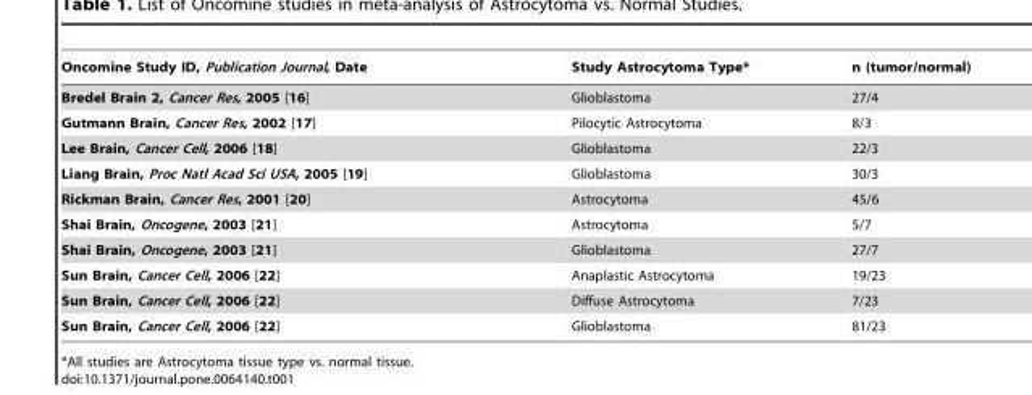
<table><thead><tr><td>Oncomine Study ID, Publication Journal, Date</td><td>Study Astrocytoma Type*</td><td>n (tumor/normal)</td></tr></thead><tbody><tr><td>Bredel Brain 2, Cancer Res, 2005 [16]</td><td>Glioblastoma</td><td>27/4</td></tr><tr><td>Gutmann Brain, Cancer Res, 2002 [17]</td><td>Pilocytic Astrocytoma</td><td>8/3</td></tr><tr><td>Lee Brain, Cancer Cell, 2006 [18]</td><td>Glioblastoma</td><td>22/3</td></tr><tr><td>Liang Brain, Proc Natl Acad Sci USA, 2005 [19]</td><td>Glioblastoma</td><td>30/3</td></tr><tr><td>Rickman Brain, Cancer Res, 2001 [20]</td><td>Astrocytoma</td><td>45/6</td></tr><tr><td>Shai Brain, Oncogene, 2003 [21]</td><td>Astrocytoma</td><td>5/7</td></tr><tr><td>Shai Brain, Oncogene, 2003 [21]</td><td>Glioblastoma</td><td>27/7</td></tr><tr><td>Sun Brain, Cancer Cell, 2006 [22]</td><td>Anaplastic Astrocytoma</td><td>19/23</td></tr><tr><td>Sun Brain, Cancer Cell, 2006 [22]</td><td>Diffuse Astrocytoma</td><td>7/23</td></tr><tr><td>Sun Brain, Cancer Cell, 2006 [22]</td><td>Glioblastoma</td><td>81/23</td></tr></tbody></table>